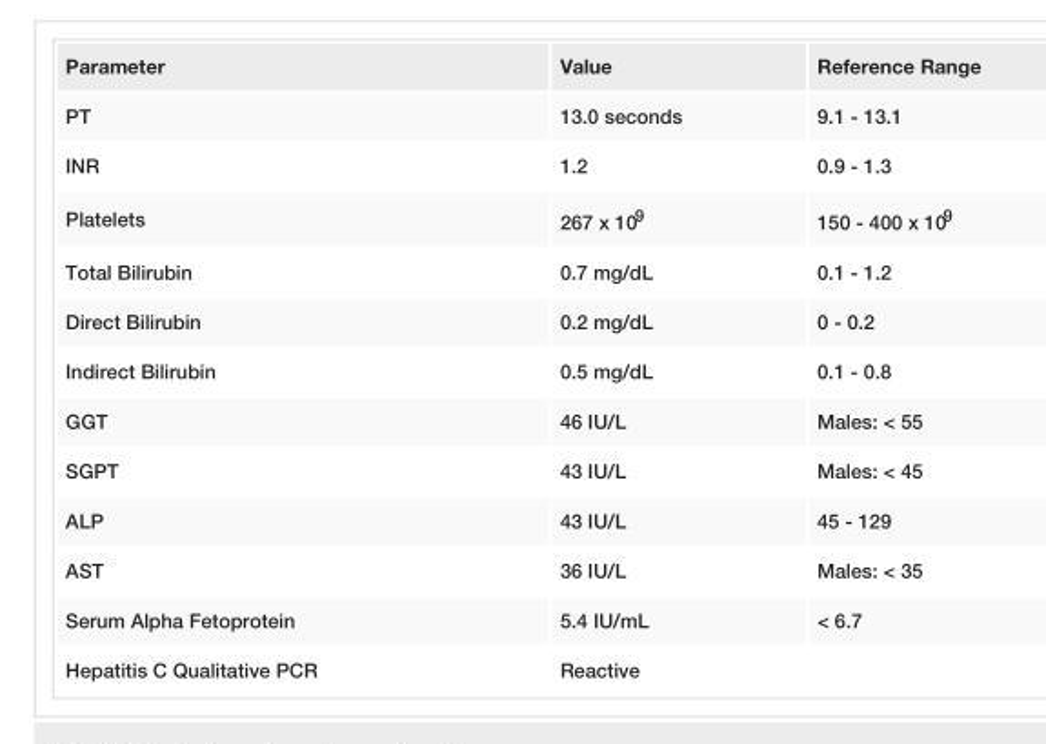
<table><tbody><tr><td>Parameter</td><td>Value</td><td>Reference Range</td></tr><tr><td>PT</td><td>13.0 seconds</td><td>9.1 - 13.1</td></tr><tr><td>INR</td><td>1.2</td><td>0.9 - 1.3</td></tr><tr><td>Platelets</td><td>267 x 10<sup>9</sup></td><td>150 - 400 x 10<sup>9</sup></td></tr><tr><td>Total Bilirubin</td><td>0.7 mg/dL</td><td>0.1 - 1.2</td></tr><tr><td>Direct Bilirubin</td><td>0.2 mg/dL</td><td>0 - 0.2</td></tr><tr><td>Indirect Bilirubin</td><td>0.5 mg/dL</td><td>0.1 - 0.8</td></tr><tr><td>GGT</td><td>46 IU/L</td><td>Males: &lt; 55</td></tr><tr><td>SGPT</td><td>43 IU/L</td><td>Males: &lt; 45</td></tr><tr><td>ALP</td><td>43 IU/L</td><td>45 - 129</td></tr><tr><td>AST</td><td>36 IU/L</td><td>Males: &lt; 35</td></tr><tr><td>Serum Alpha Fetoprotein</td><td>5.4 IU/mL</td><td>&lt; 6.7</td></tr><tr><td>Hepatitis C Qualitative PCR</td><td colspan="2">Reactive</td></tr></tbody></table>